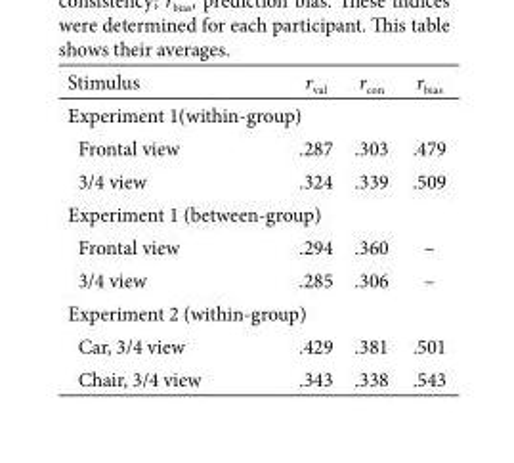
<table><thead><tr><td>Stimulus</td><td>r<sub>val</sub></td><td>r<sub>con</sub></td><td>r<sub>bias</sub></td></tr></thead><tbody><tr><td colspan="4">Experiment 1(within-group)</td></tr><tr><td>Frontal view</td><td>.287</td><td>.303</td><td>.479</td></tr><tr><td>3/4 view</td><td>.324</td><td>.339</td><td>.509</td></tr><tr><td colspan="4">Experiment 1 (between-group)</td></tr><tr><td>Frontal view</td><td>.294</td><td>.360</td><td>–</td></tr><tr><td>3/4 view</td><td>.285</td><td>.306</td><td>–</td></tr><tr><td colspan="4">Experiment 2 (within-group)</td></tr><tr><td>Car, 3/4 view</td><td>.429</td><td>.381</td><td>.501</td></tr><tr><td>Chair, 3/4 view</td><td>.343</td><td>.338</td><td>.543</td></tr></tbody></table>